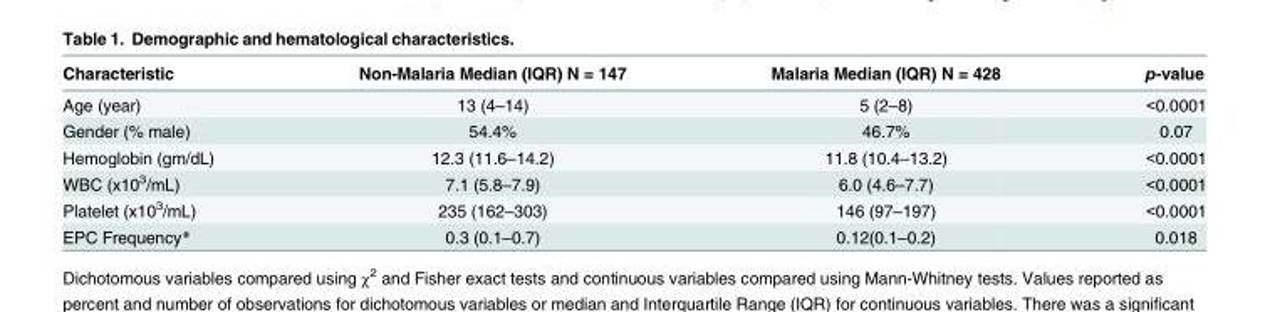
<table><thead><tr><td>Characteristic</td><td>Non-Malaria Median (IQR) N = 147</td><td>Malaria Median (IQR) N = 428</td><td>p-value</td></tr></thead><tbody><tr><td>Age (year)</td><td>13 (4–14)</td><td>5 (2–8)</td><td>&lt;0.0001</td></tr><tr><td>Gender (% male)</td><td>54.4%</td><td>46.7%</td><td>0.07</td></tr><tr><td>Hemoglobin (gm/dL)</td><td>12.3 (11.6–14.2)</td><td>11.8 (10.4–13.2)</td><td>&lt;0.0001</td></tr><tr><td>WBC (x10<sup>3</sup>/mL)</td><td>7.1 (5.8–7.9)</td><td>6.0 (4.6–7.7)</td><td>&lt;0.0001</td></tr><tr><td>Platelet (x10<sup>3</sup>/mL)</td><td>235 (162–303)</td><td>146 (97–197)</td><td>&lt;0.0001</td></tr><tr><td>EPC Frequency*</td><td>0.3 (0.1–0.7)</td><td>0.12(0.1–0.2)</td><td>0.018</td></tr></tbody></table>